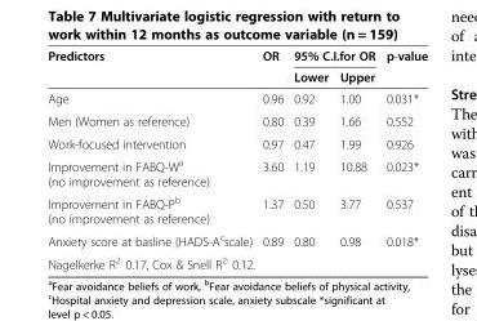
<table><thead><tr><td rowspan="2">Predictors</td><td rowspan="2">OR</td><td colspan="2">95% C.I.for OR</td><td rowspan="2">p-value</td></tr><tr><td>Lower</td><td>Upper</td></tr></thead><tbody><tr><td>Age</td><td>0.96</td><td>0.92</td><td>1.00</td><td>0.031*</td></tr><tr><td>Men (Women as reference)</td><td>0.80</td><td>0.39</td><td>1.66</td><td>0.552</td></tr><tr><td>Work-focused intervention</td><td>0.97</td><td>0.47</td><td>1.99</td><td>0.926</td></tr><tr><td>Improvement in FABQ-W<sup>a</sup> (no improvement as reference)</td><td>3.60</td><td>1.19</td><td>10.88</td><td>0.023*</td></tr><tr><td>Improvement in FABQ-P<sup>b</sup> (no improvement as reference)</td><td>1.37</td><td>0.50</td><td>3.77</td><td>0.537</td></tr><tr><td>Anxiety score at basline (HADS-A<sup>c</sup>scale)</td><td>0.89</td><td>0.80</td><td>0.98</td><td>0.018*</td></tr><tr><td colspan="5">Nagelkerke R<sup>2:</sup> 0.17, Cox &amp; Snell R<sup>2:</sup> 0.12.</td></tr></tbody></table>